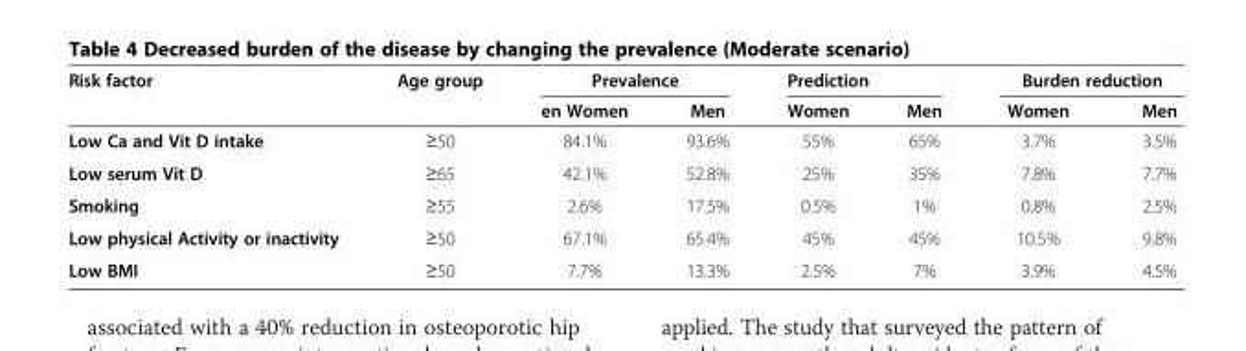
<table><thead><tr><td rowspan="2">Risk factor</td><td rowspan="2">Age group</td><td colspan="2">Prevalence</td><td colspan="2">Prediction</td><td colspan="2">Burden reduction</td></tr><tr><td>en Women</td><td>Men</td><td>Women</td><td>Men</td><td>Women</td><td>Men</td></tr></thead><tbody><tr><td>Low Ca and Vit D intake</td><td>≥50</td><td>84.1%</td><td>93.6%</td><td>55%</td><td>65%</td><td>3.7%</td><td>3.5%</td></tr><tr><td>Low serum Vit D</td><td>≥65</td><td>42.1%</td><td>52.8%</td><td>25%</td><td>35%</td><td>7.8%</td><td>7.7%</td></tr><tr><td>Smoking</td><td>≥55</td><td>2.6%</td><td>17.5%</td><td>0.5%</td><td>1%</td><td>0.8%</td><td>2.5%</td></tr><tr><td>Low physical Activity or inactivity</td><td>≥50</td><td>67.1%</td><td>65.4%</td><td>45%</td><td>45%</td><td>10.5%</td><td>9.8%</td></tr><tr><td>Low BMI</td><td>≥50</td><td>7.7%</td><td>13.3%</td><td>2.5%</td><td>7%</td><td>3.9%</td><td>4.5%</td></tr></tbody></table>